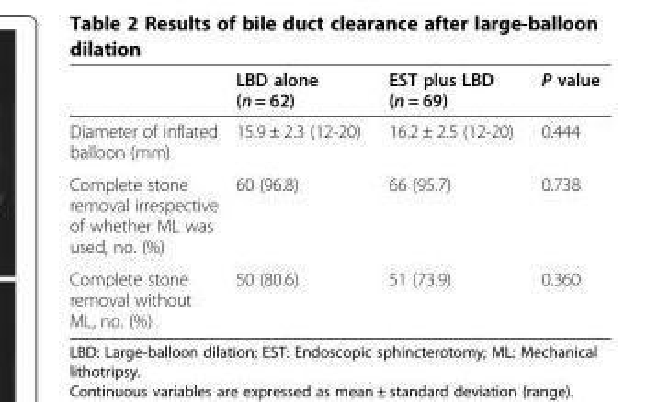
<table><thead><tr><td></td><td>LBD alone (n = 62)</td><td>EST plus LBD (n = 69)</td><td>P value</td></tr></thead><tbody><tr><td>Diameter of inflated balloon (mm)</td><td>15.9 ± 2.3 (12-20)</td><td>16.2 ± 2.5 (12-20)</td><td>0.444</td></tr><tr><td>Complete stone removal irrespective of whether ML was used, no. (%)</td><td>60 (96.8)</td><td>66 (95.7)</td><td>0.738</td></tr><tr><td>Complete stone removal without ML, no. (%)</td><td>50 (80.6)</td><td>51 (73.9)</td><td>0.360</td></tr></tbody></table>